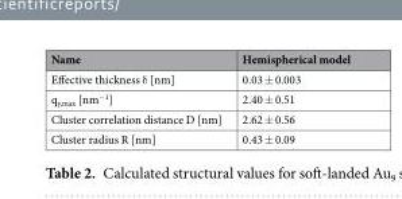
<table><thead><tr><td>Name</td><td>Hemispherical model</td></tr></thead><tbody><tr><td>Effective thickness δ [nm]</td><td>0.03 ± 0.003</td></tr><tr><td>q<sub>y,max</sub> [nm<sup>−1</sup>]</td><td>2.40 ± 0.51</td></tr><tr><td>Cluster correlation distance D [nm]</td><td>2.62 ± 0.56</td></tr><tr><td>Cluster radius R [nm]</td><td>0.43 ± 0.09</td></tr></tbody></table>